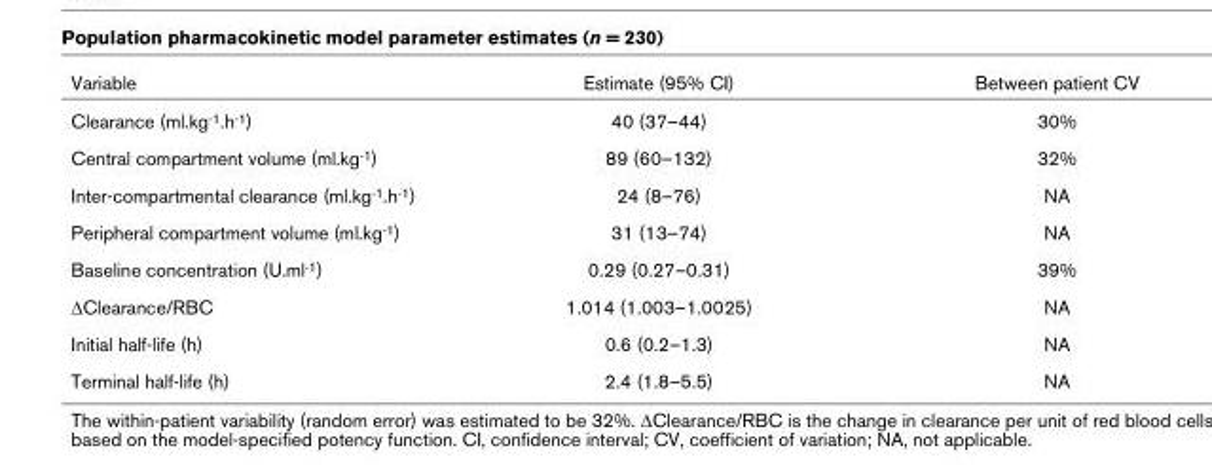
<table><thead><tr><td>Variable</td><td>Estimate (95% CI)</td><td>Between patient CV</td></tr></thead><tbody><tr><td>Clearance (ml.kg-1.h-1)</td><td>40 (37–44)</td><td>30%</td></tr><tr><td>Central compartment volume (ml.kg-1)</td><td>89 (60–132)</td><td>32%</td></tr><tr><td>Inter-compartmental clearance (ml.kg-1.h-1)</td><td>24 (8–76)</td><td>NA</td></tr><tr><td>Peripheral compartment volume (ml.kg-1)</td><td>31 (13–74)</td><td>NA</td></tr><tr><td>Baseline concentration (U.ml-1)</td><td>0.29 (0.27–0.31)</td><td>39%</td></tr><tr><td>∆Clearance/RBC</td><td>1.014 (1.003–1.0025)</td><td>NA</td></tr><tr><td>Initial half-life (h)</td><td>0.6 (0.2–1.3)</td><td>NA</td></tr><tr><td>Terminal half-life (h)</td><td>2.4 (1.8–5.5)</td><td>NA</td></tr></tbody></table>